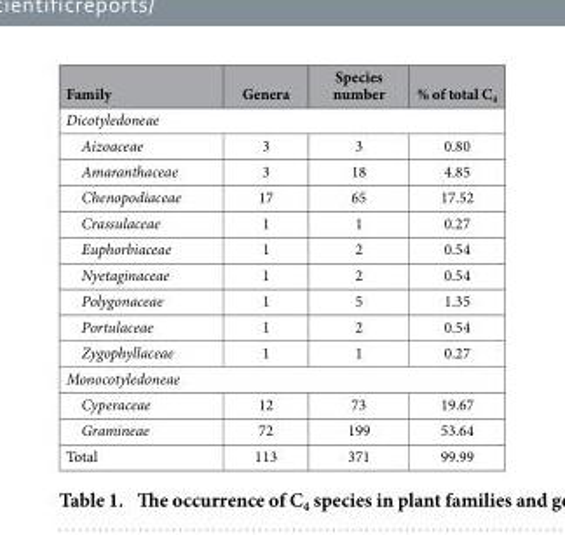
<table><thead><tr><td>Family</td><td>Genera</td><td>Species number</td><td>% of total C<sub>4</sub></td></tr></thead><tbody><tr><td colspan="4">Dicotyledoneae</td></tr><tr><td>Aizoaceae</td><td>3</td><td>3</td><td>0.80</td></tr><tr><td>Amaranthaceae</td><td>3</td><td>18</td><td>4.85</td></tr><tr><td>Chenopodiaceae</td><td>17</td><td>65</td><td>17.52</td></tr><tr><td>Crassulaceae</td><td>1</td><td>1</td><td>0.27</td></tr><tr><td>Euphorbiaceae</td><td>1</td><td>2</td><td>0.54</td></tr><tr><td>Nyetaginaceae</td><td>1</td><td>2</td><td>0.54</td></tr><tr><td>Polygonaceae</td><td>1</td><td>5</td><td>1.35</td></tr><tr><td>Portulaceae</td><td>1</td><td>2</td><td>0.54</td></tr><tr><td>Zygophyllaceae</td><td>1</td><td>1</td><td>0.27</td></tr><tr><td colspan="4">Monocotyledoneae</td></tr><tr><td>Cyperaceae</td><td>12</td><td>73</td><td>19.67</td></tr><tr><td>Gramineae</td><td>72</td><td>199</td><td>53.64</td></tr><tr><td>Total</td><td>113</td><td>371</td><td>99.99</td></tr></tbody></table>